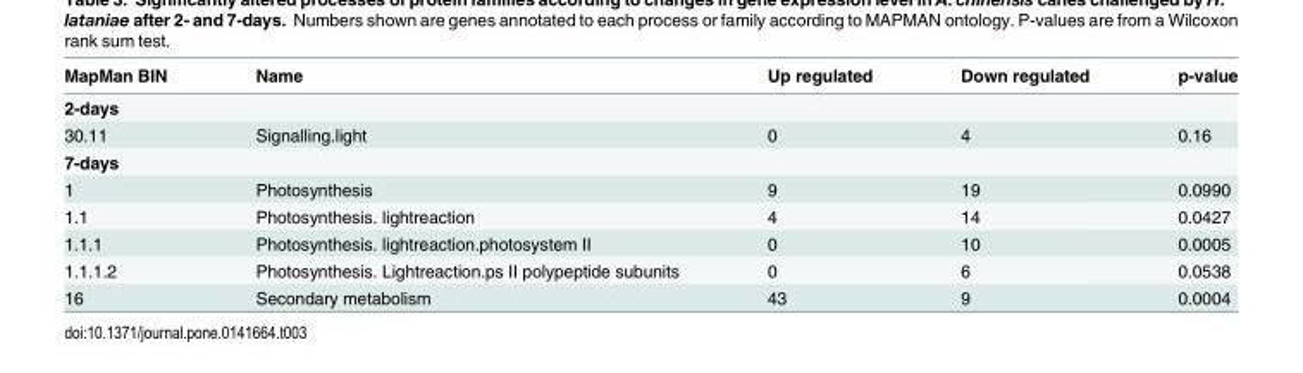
<table><thead><tr><td>MapMan BIN</td><td>Name</td><td>Up regulated</td><td>Down regulated</td><td>p-value</td></tr></thead><tbody><tr><td colspan="5">2-days</td></tr><tr><td>30.11</td><td>Signalling.light</td><td>0</td><td>4</td><td>0.16</td></tr><tr><td colspan="5">7-days</td></tr><tr><td>1</td><td>Photosynthesis</td><td>9</td><td>19</td><td>0.0990</td></tr><tr><td>1.1</td><td>Photosynthesis. lightreaction</td><td>4</td><td>14</td><td>0.0427</td></tr><tr><td>1.1.1</td><td>Photosynthesis. lightreaction.photosystem II</td><td>0</td><td>10</td><td>0.0005</td></tr><tr><td>1.1.1.2</td><td>Photosynthesis. Lightreaction.ps II polypeptide subunits</td><td>0</td><td>6</td><td>0.0538</td></tr><tr><td>16</td><td>Secondary metabolism</td><td>43</td><td>9</td><td>0.0004</td></tr></tbody></table>